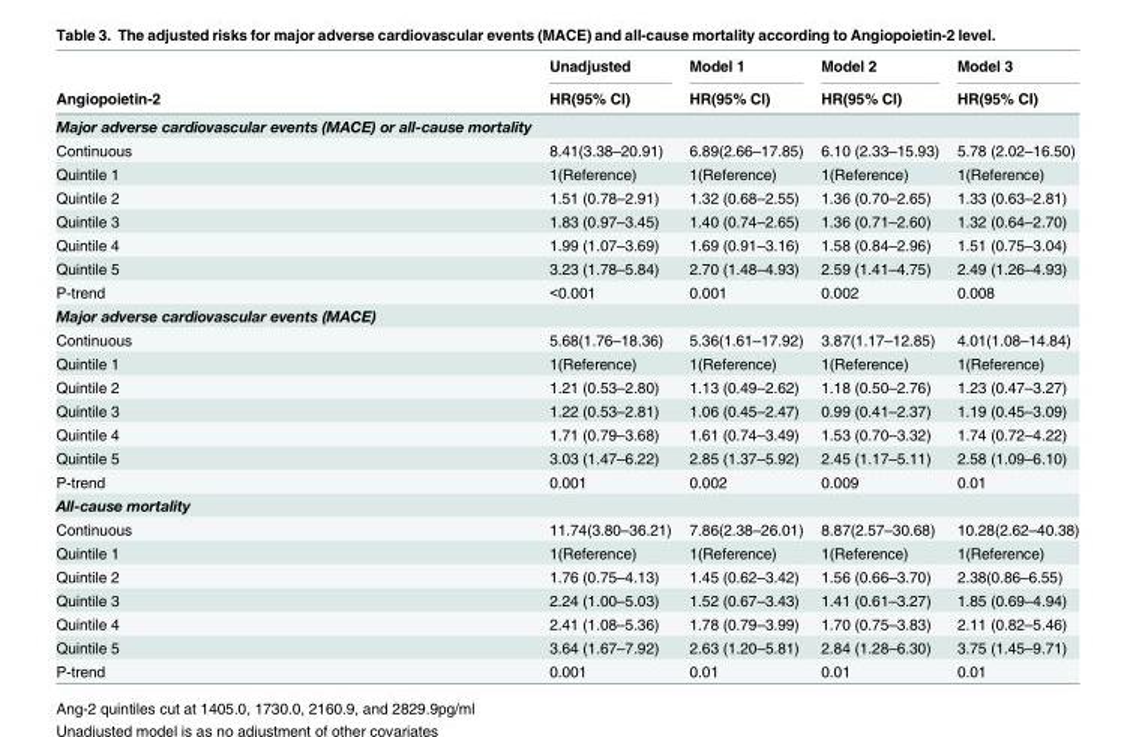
<table><thead><tr><td rowspan="2">Angiopoietin-2</td><td rowspan="2">Unadjusted HR(95% CI)</td><td rowspan="2">Model 1 HR(95% CI)</td><td rowspan="2">Model 2 HR(95% CI)</td><td rowspan="2">Model 3 HR(95% CI)</td></tr><tr></tr></thead><tbody><tr><td colspan="5">Major adverse cardiovascular events (MACE) or all-cause mortality</td></tr><tr><td>Continuous</td><td>8.41(3.38–20.91)</td><td>6.89(2.66–17.85)</td><td>6.10 (2.33–15.93)</td><td>5.78 (2.02–16.50)</td></tr><tr><td>Quintile 1</td><td>1(Reference)</td><td>1(Reference)</td><td>1(Reference)</td><td>1(Reference)</td></tr><tr><td>Quintile 2</td><td>1.51 (0.78–2.91)</td><td>1.32 (0.68–2.55)</td><td>1.36 (0.70–2.65)</td><td>1.33 (0.63–2.81)</td></tr><tr><td>Quintile 3</td><td>1.83 (0.97–3.45)</td><td>1.40 (0.74–2.65)</td><td>1.36 (0.71–2.60)</td><td>1.32 (0.64–2.70)</td></tr><tr><td>Quintile 4</td><td>1.99 (1.07–3.69)</td><td>1.69 (0.91–3.16)</td><td>1.58 (0.84–2.96)</td><td>1.51 (0.75–3.04)</td></tr><tr><td>Quintile 5</td><td>3.23 (1.78–5.84)</td><td>2.70 (1.48–4.93)</td><td>2.59 (1.41–4.75)</td><td>2.49 (1.26–4.93)</td></tr><tr><td>P-trend</td><td>&lt;0.001</td><td>0.001</td><td>0.002</td><td>0.008</td></tr><tr><td colspan="5">Major adverse cardiovascular events (MACE)</td></tr><tr><td>Continuous</td><td>5.68(1.76–18.36)</td><td>5.36(1.61–17.92)</td><td>3.87(1.17–12.85)</td><td>4.01(1.08–14.84)</td></tr><tr><td>Quintile 1</td><td>1(Reference)</td><td>1(Reference)</td><td>1(Reference)</td><td>1(Reference)</td></tr><tr><td>Quintile 2</td><td>1.21 (0.53–2.80)</td><td>1.13 (0.49–2.62)</td><td>1.18 (0.50–2.76)</td><td>1.23 (0.47–3.27)</td></tr><tr><td>Quintile 3</td><td>1.22 (0.53–2.81)</td><td>1.06 (0.45–2.47)</td><td>0.99 (0.41–2.37)</td><td>1.19 (0.45–3.09)</td></tr><tr><td>Quintile 4</td><td>1.71 (0.79–3.68)</td><td>1.61 (0.74–3.49)</td><td>1.53 (0.70–3.32)</td><td>1.74 (0.72–4.22)</td></tr><tr><td>Quintile 5</td><td>3.03 (1.47–6.22)</td><td>2.85 (1.37–5.92)</td><td>2.45 (1.17–5.11)</td><td>2.58 (1.09–6.10)</td></tr><tr><td>P-trend</td><td>0.001</td><td>0.002</td><td>0.009</td><td>0.01</td></tr><tr><td colspan="5">All-cause mortality</td></tr><tr><td>Continuous</td><td>11.74(3.80–36.21)</td><td>7.86(2.38–26.01)</td><td>8.87(2.57–30.68)</td><td>10.28(2.62–40.38)</td></tr><tr><td>Quintile 1</td><td>1(Reference)</td><td>1(Reference)</td><td>1(Reference)</td><td>1(Reference)</td></tr><tr><td>Quintile 2</td><td>1.76 (0.75–4.13)</td><td>1.45 (0.62–3.42)</td><td>1.56 (0.66–3.70)</td><td>2.38(0.86–6.55)</td></tr><tr><td>Quintile 3</td><td>2.24 (1.00–5.03)</td><td>1.52 (0.67–3.43)</td><td>1.41 (0.61–3.27)</td><td>1.85 (0.69–4.94)</td></tr><tr><td>Quintile 4</td><td>2.41 (1.08–5.36)</td><td>1.78 (0.79–3.99)</td><td>1.70 (0.75–3.83)</td><td>2.11 (0.82–5.46)</td></tr><tr><td>Quintile 5</td><td>3.64 (1.67–7.92)</td><td>2.63 (1.20–5.81)</td><td>2.84 (1.28–6.30)</td><td>3.75 (1.45–9.71)</td></tr><tr><td>P-trend</td><td>0.001</td><td>0.01</td><td>0.01</td><td>0.01</td></tr></tbody></table>